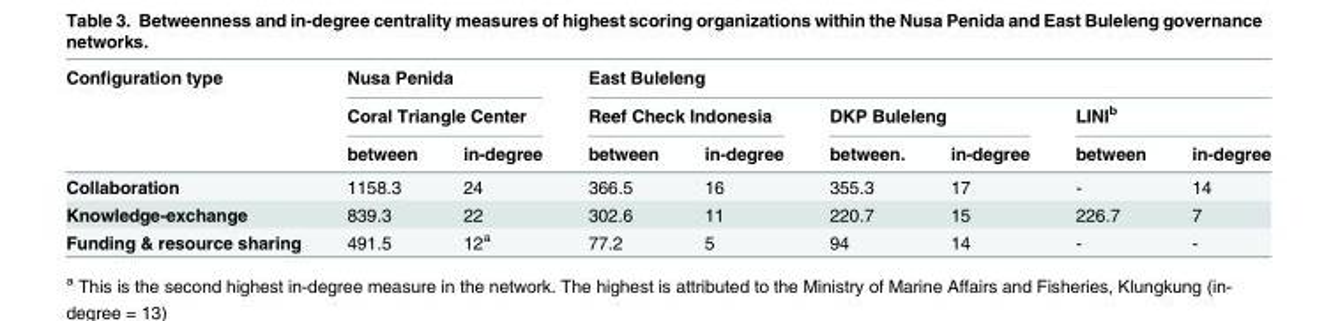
<table><thead><tr><td rowspan="3">Configuration type</td><td rowspan="2" colspan="2">Nusa Penida Coral Triangle Center</td><td colspan="6">East Buleleng</td></tr><tr><td colspan="2">Reef Check Indonesia</td><td colspan="2">DKP Buleleng</td><td colspan="2">LINI<sup>b</sup></td></tr><tr><td>between</td><td>in-degree</td><td>between</td><td>in-degree</td><td>between.</td><td>in-degree</td><td>between</td><td>in-degree</td></tr></thead><tbody><tr><td>Collaboration</td><td>1158.3</td><td>24</td><td>366.5</td><td>16</td><td>355.3</td><td>17</td><td>-</td><td>14</td></tr><tr><td>Knowledge-exchange</td><td>839.3</td><td>22</td><td>302.6</td><td>11</td><td>220.7</td><td>15</td><td>226.7</td><td>7</td></tr><tr><td>Funding &amp; resource sharing</td><td>491.5</td><td>12<sup>a</sup></td><td>77.2</td><td>5</td><td>94</td><td>14</td><td>-</td><td>-</td></tr></tbody></table>